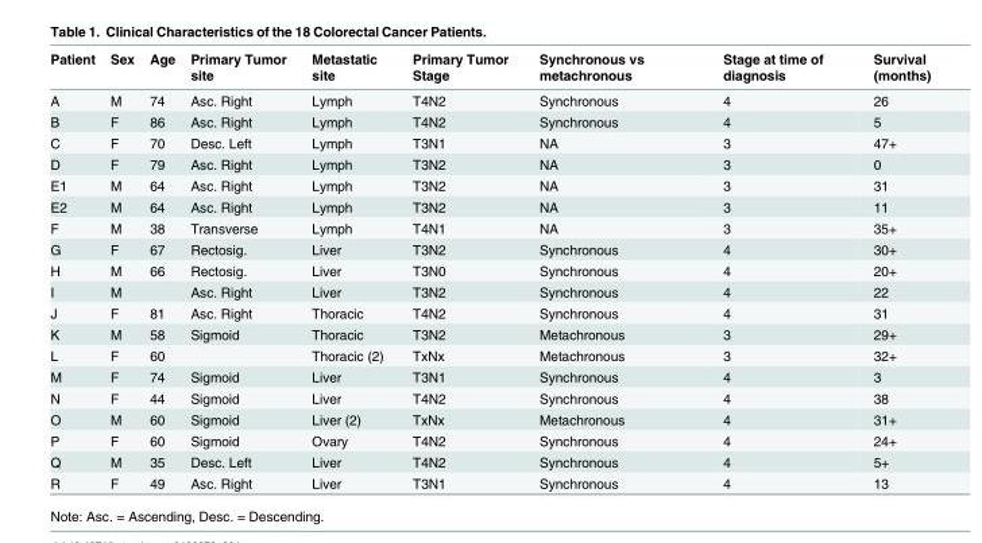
<table><thead><tr><td>Patient</td><td>Sex</td><td>Age</td><td>Primary Tumor site</td><td>Metastatic site</td><td>Primary Tumor Stage</td><td>Synchronous vs metachronous</td><td>Stage at time of diagnosis</td><td>Survival (months)</td></tr></thead><tbody><tr><td>A</td><td>M</td><td>74</td><td>Asc. Right</td><td>Lymph</td><td>T4N2</td><td>Synchronous</td><td>4</td><td>26</td></tr><tr><td>B</td><td>F</td><td>86</td><td>Asc. Right</td><td>Lymph</td><td>T4N2</td><td>Synchronous</td><td>4</td><td>5</td></tr><tr><td>C</td><td>F</td><td>70</td><td>Desc. Left</td><td>Lymph</td><td>T3N1</td><td>NA</td><td>3</td><td>47+</td></tr><tr><td>D</td><td>F</td><td>79</td><td>Asc. Right</td><td>Lymph</td><td>T3N2</td><td>NA</td><td>3</td><td>0</td></tr><tr><td>E1</td><td>M</td><td>64</td><td>Asc. Right</td><td>Lymph</td><td>T3N2</td><td>NA</td><td>3</td><td>31</td></tr><tr><td>E2</td><td>M</td><td>64</td><td>Asc. Right</td><td>Lymph</td><td>T3N2</td><td>NA</td><td>3</td><td>11</td></tr><tr><td>F</td><td>M</td><td>38</td><td>Transverse</td><td>Lymph</td><td>T4N1</td><td>NA</td><td>3</td><td>35+</td></tr><tr><td>G</td><td>F</td><td>67</td><td>Rectosig.</td><td>Liver</td><td>T3N2</td><td>Synchronous</td><td>4</td><td>30+</td></tr><tr><td>H</td><td>M</td><td>66</td><td>Rectosig.</td><td>Liver</td><td>T3N0</td><td>Synchronous</td><td>4</td><td>20+</td></tr><tr><td>I</td><td>M</td><td></td><td>Asc. Right</td><td>Liver</td><td>T3N2</td><td>Synchronous</td><td>4</td><td>22</td></tr><tr><td>J</td><td>F</td><td>81</td><td>Asc. Right</td><td>Thoracic</td><td>T4N2</td><td>Synchronous</td><td>4</td><td>31</td></tr><tr><td>K</td><td>M</td><td>58</td><td>Sigmoid</td><td>Thoracic</td><td>T3N2</td><td>Metachronous</td><td>3</td><td>29+</td></tr><tr><td>L</td><td>F</td><td>60</td><td></td><td>Thoracic (2)</td><td>TxNx</td><td>Metachronous</td><td>3</td><td>32+</td></tr><tr><td>M</td><td>F</td><td>74</td><td>Sigmoid</td><td>Liver</td><td>T3N1</td><td>Synchronous</td><td>4</td><td>3</td></tr><tr><td>N</td><td>F</td><td>44</td><td>Sigmoid</td><td>Liver</td><td>T4N2</td><td>Synchronous</td><td>4</td><td>38</td></tr><tr><td>O</td><td>M</td><td>60</td><td>Sigmoid</td><td>Liver (2)</td><td>TxNx</td><td>Metachronous</td><td>4</td><td>31+</td></tr><tr><td>P</td><td>F</td><td>60</td><td>Sigmoid</td><td>Ovary</td><td>T4N2</td><td>Synchronous</td><td>4</td><td>24+</td></tr><tr><td>Q</td><td>M</td><td>35</td><td>Desc. Left</td><td>Liver</td><td>T4N2</td><td>Synchronous</td><td>4</td><td>5+</td></tr><tr><td>R</td><td>F</td><td>49</td><td>Asc. Right</td><td>Liver</td><td>T3N1</td><td>Synchronous</td><td>4</td><td>13</td></tr></tbody></table>